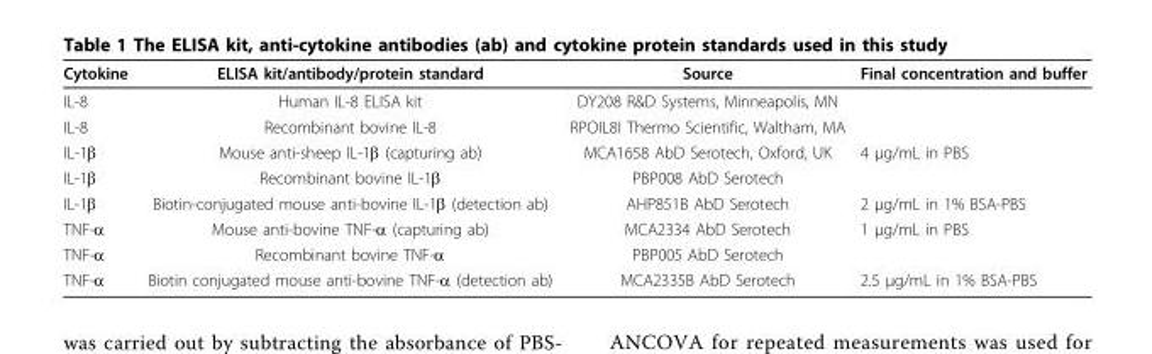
<table><thead><tr><td>Cytokine</td><td>ELISA kit/antibody/protein standard</td><td>Source</td><td>Final concentration and buffer</td></tr></thead><tbody><tr><td>IL-8</td><td>Human IL-8 ELISA kit</td><td>DY208 R&amp;D Systems, Minneapolis, MN</td><td></td></tr><tr><td>IL-8</td><td>Recombinant bovine IL-8</td><td>RPOIL8I Thermo Scientific, Waltham, MA</td><td></td></tr><tr><td>IL-1β</td><td>Mouse anti-sheep IL-1β (capturing ab)</td><td>MCA1658 AbD Serotech, Oxford, UK</td><td>4 μg/mL in PBS</td></tr><tr><td>IL-1β</td><td>Recombinant bovine IL-1β</td><td>PBP008 AbD Serotech</td><td></td></tr><tr><td>IL-1β</td><td>Biotin-conjugated mouse anti-bovine IL-1β (detection ab)</td><td>AHP851B AbD Serotech</td><td>2 μg/mL in 1% BSA-PBS</td></tr><tr><td>TNF-α</td><td>Mouse anti-bovine TNF-α (capturing ab)</td><td>MCA2334 AbD Serotech</td><td>1 μg/mL in PBS</td></tr><tr><td>TNF-α</td><td>Recombinant bovine TNF-α</td><td>PBP005 AbD Serotech</td><td></td></tr><tr><td>TNF-α</td><td>Biotin conjugated mouse anti-bovine TNF-α (detection ab)</td><td>MCA2335B AbD Serotech</td><td>2.5 μg/mL in 1% BSA-PBS</td></tr></tbody></table>